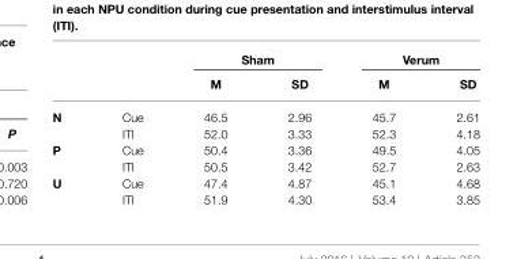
<table><thead><tr><td rowspan="2"></td><td rowspan="2"></td><td colspan="2">Sham</td><td colspan="2">Verum</td></tr><tr><td>M</td><td>SD</td><td>M</td><td>SD</td></tr></thead><tbody><tr><td rowspan="2">N</td><td>Cue</td><td>46.5</td><td>2.96</td><td>45.7</td><td>2.61</td></tr><tr><td>ITI</td><td>52.0</td><td>3.33</td><td>52.3</td><td>4.18</td></tr><tr><td rowspan="2">P</td><td>Cue</td><td>50.4</td><td>3.36</td><td>49.5</td><td>4.05</td></tr><tr><td>ITI</td><td>50.5</td><td>3.42</td><td>52.7</td><td>2.63</td></tr><tr><td rowspan="2">U</td><td>Cue</td><td>47.4</td><td>4.87</td><td>45.1</td><td>4.68</td></tr><tr><td>ITI</td><td>51.9</td><td>4.30</td><td>53.4</td><td>3.85</td></tr></tbody></table>